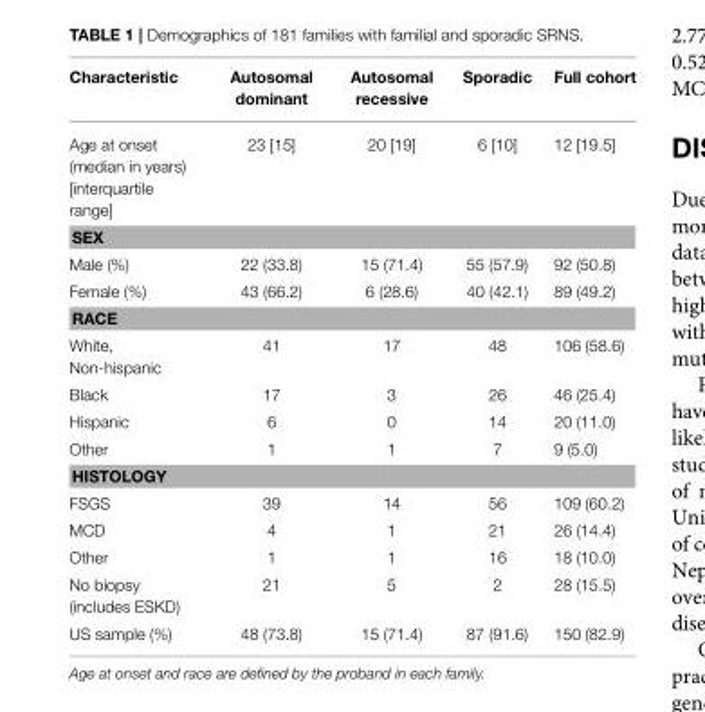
<table><thead><tr><td>Characteristic</td><td>Autosomal dominant</td><td>Autosomal recessive</td><td>Sporadic</td><td>Full cohort</td></tr></thead><tbody><tr><td>Age at onset (median in years) [interquartile range]</td><td>23 [15]</td><td>20 [19]</td><td>6 [10]</td><td>12 [19.5]</td></tr><tr><td colspan="5">SEX</td></tr><tr><td>Male (%)</td><td>22 (33.8)</td><td>15 (71.4)</td><td>55 (57.9)</td><td>92 (50.8)</td></tr><tr><td>Female (%)</td><td>43 (66.2)</td><td>6 (28.6)</td><td>40 (42.1)</td><td>89 (49.2)</td></tr><tr><td colspan="5">RACE</td></tr><tr><td>White, Non-hispanic</td><td>41</td><td>17</td><td>48</td><td>106 (58.6)</td></tr><tr><td>Black</td><td>17</td><td>3</td><td>26</td><td>46 (25.4)</td></tr><tr><td>Hispanic</td><td>6</td><td>0</td><td>14</td><td>20 (11.0)</td></tr><tr><td>Other</td><td>1</td><td>1</td><td>7</td><td>9 (5.0)</td></tr><tr><td colspan="5">HISTOLOGY</td></tr><tr><td>FSGS</td><td>39</td><td>14</td><td>56</td><td>109 (60.2)</td></tr><tr><td>MCD</td><td>4</td><td>1</td><td>21</td><td>26 (14.4)</td></tr><tr><td>Other</td><td>1</td><td>1</td><td>16</td><td>18 (10.0)</td></tr><tr><td>No biopsy (includes ESKD)</td><td>21</td><td>5</td><td>2</td><td>28 (15.5)</td></tr><tr><td>US sample (%)</td><td>48 (73.8)</td><td>15 (71.4)</td><td>87 (91.6)</td><td>150 (82.9)</td></tr></tbody></table>